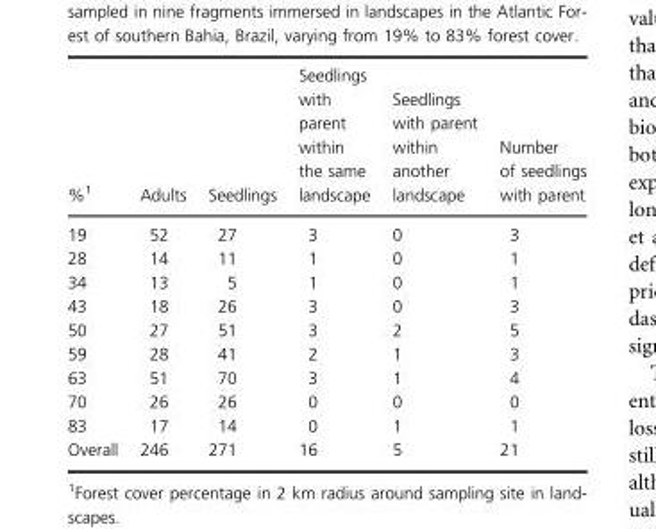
<table><thead><tr><td>%1</td><td>Adults</td><td>Seedlings</td><td>Seedlings with parent within the same landscape</td><td>Seedlings with parent within another landscape</td><td>Number of seedlings with parent</td></tr></thead><tbody><tr><td>19</td><td>52</td><td>27</td><td>3</td><td>0</td><td>3</td></tr><tr><td>28</td><td>14</td><td>11</td><td>1</td><td>0</td><td>1</td></tr><tr><td>34</td><td>13</td><td>5</td><td>1</td><td>0</td><td>1</td></tr><tr><td>43</td><td>18</td><td>26</td><td>3</td><td>0</td><td>3</td></tr><tr><td>50</td><td>27</td><td>51</td><td>3</td><td>2</td><td>5</td></tr><tr><td>59</td><td>28</td><td>41</td><td>2</td><td>1</td><td>3</td></tr><tr><td>63</td><td>51</td><td>70</td><td>3</td><td>1</td><td>4</td></tr><tr><td>70</td><td>26</td><td>26</td><td>0</td><td>0</td><td>0</td></tr><tr><td>83</td><td>17</td><td>14</td><td>0</td><td>1</td><td>1</td></tr><tr><td>Overall</td><td>246</td><td>271</td><td>16</td><td>5</td><td>21</td></tr></tbody></table>